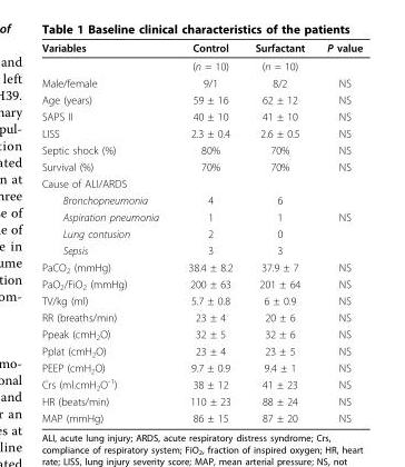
<table><thead><tr><td>Variables</td><td>Control</td><td>Surfactant</td><td>P value</td></tr></thead><tbody><tr><td></td><td>(n = 10)</td><td>(n = 10)</td><td></td></tr><tr><td>Male/female</td><td>9/1</td><td>8/2</td><td>NS</td></tr><tr><td>Age (years)</td><td>59 ± 16</td><td>62 ± 12</td><td>NS</td></tr><tr><td>SAPS II</td><td>40 ± 10</td><td>41 ± 10</td><td>NS</td></tr><tr><td>LISS</td><td>2.3 ± 0.4</td><td>2.6 ± 0.5</td><td>NS</td></tr><tr><td>Septic shock (%)</td><td>80%</td><td>70%</td><td>NS</td></tr><tr><td>Survival (%)</td><td>70%</td><td>70%</td><td>NS</td></tr><tr><td colspan="4">Cause of ALI/ARDS</td></tr><tr><td>Bronchopneumonia</td><td>4</td><td>6</td><td></td></tr><tr><td>Aspiration pneumonia</td><td>1</td><td>1</td><td>NS</td></tr><tr><td>Lung contusion</td><td>2</td><td>0</td><td></td></tr><tr><td>Sepsis</td><td>3</td><td>3</td><td></td></tr><tr><td>PaCO<sub>2</sub> (mmHg)</td><td>38.4 ± 8.2</td><td>37.9 ± 7</td><td>NS</td></tr><tr><td>PaO<sub>2</sub>/FiO<sub>2</sub> (mmHg)</td><td>200 ± 63</td><td>201 ± 64</td><td>NS</td></tr><tr><td>TV/kg (ml)</td><td>5.7 ± 0.8</td><td>6 ± 0.9</td><td>NS</td></tr><tr><td>RR (breaths/min)</td><td>23 ± 4</td><td>20 ± 6</td><td>NS</td></tr><tr><td>Ppeak (cmH<sub>2</sub>O)</td><td>32 ± 5</td><td>32 ± 6</td><td>NS</td></tr><tr><td>Pplat (cmH<sub>2</sub>O)</td><td>23 ± 4</td><td>23 ± 5</td><td>NS</td></tr><tr><td>PEEP (cmH<sub>2</sub>O)</td><td>9.7 ± 0.9</td><td>9.4 ± 1</td><td>NS</td></tr><tr><td>Crs (ml.cmH<sub>2</sub>O<sup>-1</sup>)</td><td>38 ± 12</td><td>41 ± 23</td><td>NS</td></tr><tr><td>HR (beats/min)</td><td>110 ± 23</td><td>88 ± 24</td><td>NS</td></tr><tr><td>MAP (mmHg)</td><td>86 ± 15</td><td>87 ± 20</td><td>NS</td></tr></tbody></table>